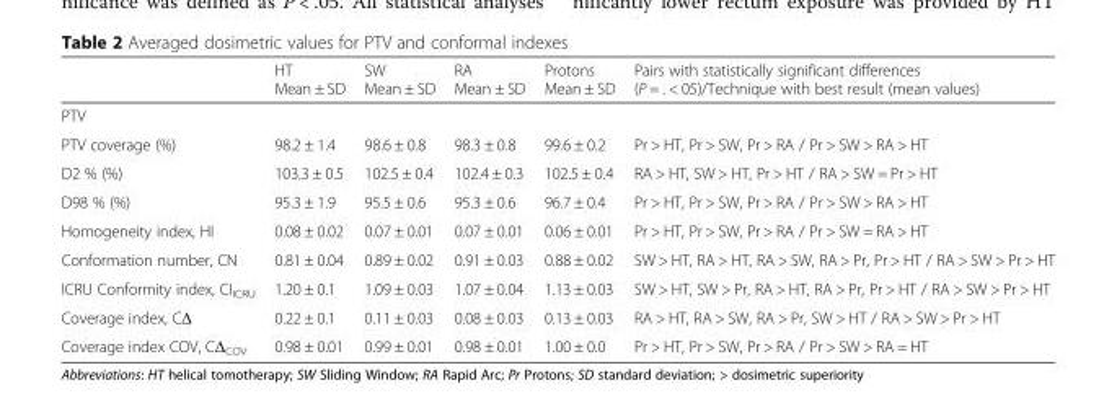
<table><thead><tr><td></td><td>HT Mean ± SD</td><td>SW Mean ± SD</td><td>RA Mean ± SD</td><td>Protons Mean ± SD</td><td>Pairs with statistically significant differences (P = . &lt; 05)/Technique with best result (mean values)</td></tr></thead><tbody><tr><td colspan="6">PTV</td></tr><tr><td>PTV coverage (%)</td><td>98.2 ± 1.4</td><td>98.6 ± 0.8</td><td>98.3 ± 0.8</td><td>99.6 ± 0.2</td><td>Pr &gt; HT, Pr &gt; SW, Pr &gt; RA / Pr &gt; SW &gt; RA &gt; HT</td></tr><tr><td>D2 % (%)</td><td>103.3 ± 0.5</td><td>102.5 ± 0.4</td><td>102.4 ± 0.3</td><td>102.5 ± 0.4</td><td>RA &gt; HT, SW &gt; HT, Pr &gt; HT / RA &gt; SW = Pr &gt; HT</td></tr><tr><td>D98 % (%)</td><td>95.3 ± 1.9</td><td>95.5 ± 0.6</td><td>95.3 ± 0.6</td><td>96.7 ± 0.4</td><td>Pr &gt; HT, Pr &gt; SW, Pr &gt; RA / Pr &gt; SW &gt; RA &gt; HT</td></tr><tr><td>Homogeneity index, HI</td><td>0.08 ± 0.02</td><td>0.07 ± 0.01</td><td>0.07 ± 0.01</td><td>0.06 ± 0.01</td><td>Pr &gt; HT, Pr &gt; SW, Pr &gt; RA / Pr &gt; SW = RA &gt; HT</td></tr><tr><td>Conformation number, CN</td><td>0.81 ± 0.04</td><td>0.89 ± 0.02</td><td>0.91 ± 0.03</td><td>0.88 ± 0.02</td><td>SW &gt; HT, RA &gt; HT, RA &gt; SW, RA &gt; Pr, Pr &gt; HT / RA &gt; SW &gt; Pr &gt; HT</td></tr><tr><td>ICRU Conformity index, CI<sub>ICRU</sub></td><td>1.20 ± 0.1</td><td>1.09 ± 0.03</td><td>1.07 ± 0.04</td><td>1.13 ± 0.03</td><td>SW &gt; HT, SW &gt; Pr, RA &gt; HT, RA &gt; Pr, Pr &gt; HT / RA &gt; SW &gt; Pr &gt; HT</td></tr><tr><td>Coverage index, CΔ</td><td>0.22 ± 0.1</td><td>0.11 ± 0.03</td><td>0.08 ± 0.03</td><td>0.13 ± 0.03</td><td>RA &gt; HT, RA &gt; SW, RA &gt; Pr, SW &gt; HT / RA &gt; SW &gt; Pr &gt; HT</td></tr><tr><td>Coverage index COV, CΔ<sub>COV</sub></td><td>0.98 ± 0.01</td><td>0.99 ± 0.01</td><td>0.98 ± 0.01</td><td>1.00 ± 0.0</td><td>Pr &gt; HT, Pr &gt; SW, Pr &gt; RA / Pr &gt; SW &gt; RA = HT</td></tr></tbody></table>